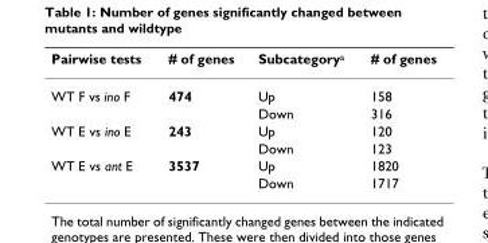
<table><thead><tr><td>Pairwise tests</td><td># of genes</td><td>Subcategory<sup>a</sup></td><td># of genes</td></tr></thead><tbody><tr><td rowspan="2">WT F vs ino F</td><td>474</td><td>Up</td><td>158</td></tr><tr><td></td><td>Down</td><td>316</td></tr><tr><td rowspan="2">WT E vs ino E</td><td>243</td><td>Up</td><td>120</td></tr><tr><td></td><td>Down</td><td>123</td></tr><tr><td rowspan="2">WT E vs ant E</td><td>3537</td><td>Up</td><td>1820</td></tr><tr><td></td><td>Down</td><td>1717</td></tr></tbody></table>